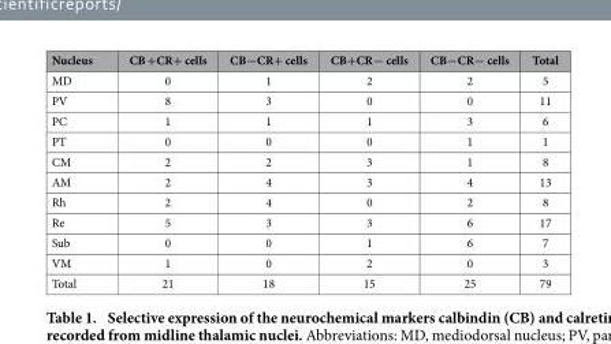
<table><thead><tr><td>Nucleus</td><td>CB +CR+ cells</td><td>CB−CR+ cells</td><td>CB+CR− cells</td><td>CB−CR− cells</td><td>Total</td></tr></thead><tbody><tr><td>MD</td><td>0</td><td>1</td><td>2</td><td>2</td><td>5</td></tr><tr><td>PV</td><td>8</td><td>3</td><td>0</td><td>0</td><td>11</td></tr><tr><td>PC</td><td>1</td><td>1</td><td>1</td><td>3</td><td>6</td></tr><tr><td>PT</td><td>0</td><td>0</td><td>0</td><td>1</td><td>1</td></tr><tr><td>CM</td><td>2</td><td>2</td><td>3</td><td>1</td><td>8</td></tr><tr><td>AM</td><td>2</td><td>4</td><td>3</td><td>4</td><td>13</td></tr><tr><td>Rh</td><td>2</td><td>4</td><td>0</td><td>2</td><td>8</td></tr><tr><td>Re</td><td>5</td><td>3</td><td>3</td><td>6</td><td>17</td></tr><tr><td>Sub</td><td>0</td><td>0</td><td>1</td><td>6</td><td>7</td></tr><tr><td>VM</td><td>1</td><td>0</td><td>2</td><td>0</td><td>3</td></tr><tr><td>Total</td><td>21</td><td>18</td><td>15</td><td>25</td><td>79</td></tr></tbody></table>